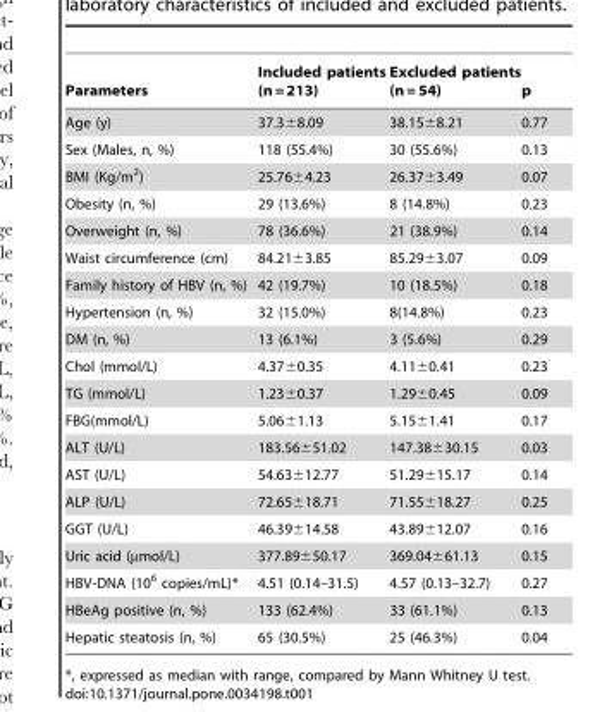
<table><thead><tr><td>Parameters</td><td>Included patients (n = 213)</td><td>Excluded patients (n = 54)</td><td>p</td></tr></thead><tbody><tr><td>Age (y)</td><td>37.3±8.09</td><td>38.15±8.21</td><td>0.77</td></tr><tr><td>Sex (Males, n, %)</td><td>118 (55.4%)</td><td>30 (55.6%)</td><td>0.13</td></tr><tr><td>BMI (Kg/m<sup>2</sup>)</td><td>25.76±4.23</td><td>26.37±3.49</td><td>0.07</td></tr><tr><td>Obesity (n, %)</td><td>29 (13.6%)</td><td>8 (14.8%)</td><td>0.23</td></tr><tr><td>Overweight (n, %)</td><td>78 (36.6%)</td><td>21 (38.9%)</td><td>0.14</td></tr><tr><td>Waist circumference (cm)</td><td>84.21±3.85</td><td>85.29±3.07</td><td>0.09</td></tr><tr><td>Family history of HBV (n, %)</td><td>42 (19.7%)</td><td>10 (18.5%)</td><td>0.18</td></tr><tr><td>Hypertension (n, %)</td><td>32 (15.0%)</td><td>8(14.8%)</td><td>0.23</td></tr><tr><td>DM (n, %)</td><td>13 (6.1%)</td><td>3 (5.6%)</td><td>0.29</td></tr><tr><td>Chol (mmol/L)</td><td>4.37±0.35</td><td>4.11±0.41</td><td>0.23</td></tr><tr><td>TG (mmol/L)</td><td>1.23±0.37</td><td>1.29±0.45</td><td>0.09</td></tr><tr><td>FBG(mmol/L)</td><td>5.06±1.13</td><td>5.15±1.41</td><td>0.17</td></tr><tr><td>ALT (U/L)</td><td>183.56±51.02</td><td>147.38±30.15</td><td>0.03</td></tr><tr><td>AST (U/L)</td><td>54.63±12.77</td><td>51.29±15.17</td><td>0.14</td></tr><tr><td>ALP (U/L)</td><td>72.65±18.71</td><td>71.55±18.27</td><td>0.25</td></tr><tr><td>GGT (U/L)</td><td>46.39±14.58</td><td>43.89±12.07</td><td>0.16</td></tr><tr><td>Uric acid (µmol/L)</td><td>377.89±50.17</td><td>369.04±61.13</td><td>0.15</td></tr><tr><td>HBV-DNA (10<sup>6</sup> copies/mL)*</td><td>4.51 (0.14–31.5)</td><td>4.57 (0.13–32.7)</td><td>0.27</td></tr><tr><td>HBeAg positive (n, %)</td><td>133 (62.4%)</td><td>33 (61.1%)</td><td>0.13</td></tr><tr><td>Hepatic steatosis (n, %)</td><td>65 (30.5%)</td><td>25 (46.3%)</td><td>0.04</td></tr></tbody></table>